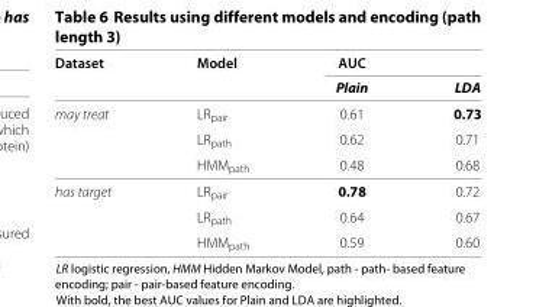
<table><thead><tr><td rowspan="2">Dataset</td><td rowspan="2">Model</td><td rowspan="2">AUC Plain</td><td rowspan="2">LDA</td></tr><tr></tr></thead><tbody><tr><td rowspan="3">may treat</td><td>LR<sub>pair</sub></td><td>0.61</td><td>0.73</td></tr><tr><td>LR<sub>path</sub></td><td>0.62</td><td>0.71</td></tr><tr><td>HMM<sub>path</sub></td><td>0.48</td><td>0.68</td></tr><tr><td rowspan="3">has target</td><td>LR<sub>pair</sub></td><td>0.78</td><td>0.72</td></tr><tr><td>LR<sub>path</sub></td><td>0.64</td><td>0.67</td></tr><tr><td>HMM<sub>path</sub></td><td>0.59</td><td>0.60</td></tr></tbody></table>